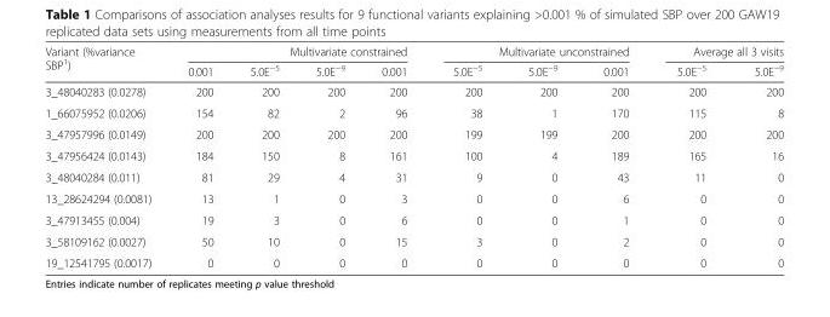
<table><thead><tr><td rowspan="2">Variant (%variance SBP<sup>1</sup>)</td><td colspan="4">Multivariate constrained</td><td colspan="3">Multivariate unconstrained</td><td colspan="2">Average all 3 visits</td></tr><tr><td>0.001</td><td>5.0E<sup>−5</sup></td><td>5.0E<sup>−9</sup></td><td>0.001</td><td>5.0E<sup>−5</sup></td><td>5.0E<sup>−9</sup></td><td>0.001</td><td>5.0E<sup>−5</sup></td><td>5.0E<sup>−9</sup></td></tr></thead><tbody><tr><td>3_48040283 (0.0278)</td><td>200</td><td>200</td><td>200</td><td>200</td><td>200</td><td>200</td><td>200</td><td>200</td><td>200</td></tr><tr><td>1_66075952 (0.0206)</td><td>154</td><td>82</td><td>2</td><td>96</td><td>38</td><td>1</td><td>170</td><td>115</td><td>8</td></tr><tr><td>3_47957996 (0.0149)</td><td>200</td><td>200</td><td>200</td><td>200</td><td>199</td><td>199</td><td>200</td><td>200</td><td>200</td></tr><tr><td>3_47956424 (0.0143)</td><td>184</td><td>150</td><td>8</td><td>161</td><td>100</td><td>4</td><td>189</td><td>165</td><td>16</td></tr><tr><td>3_48040284 (0.011)</td><td>81</td><td>29</td><td>4</td><td>31</td><td>9</td><td>0</td><td>43</td><td>11</td><td>0</td></tr><tr><td>13_28624294 (0.0081)</td><td>13</td><td>1</td><td>0</td><td>3</td><td>0</td><td>0</td><td>6</td><td>0</td><td>0</td></tr><tr><td>3_47913455 (0.004)</td><td>19</td><td>3</td><td>0</td><td>6</td><td>0</td><td>0</td><td>1</td><td>0</td><td>0</td></tr><tr><td>3_58109162 (0.0027)</td><td>50</td><td>10</td><td>0</td><td>15</td><td>3</td><td>0</td><td>2</td><td>0</td><td>0</td></tr><tr><td>19_12541795 (0.0017)</td><td>0</td><td>0</td><td>0</td><td>0</td><td>0</td><td>0</td><td>0</td><td>0</td><td>0</td></tr></tbody></table>